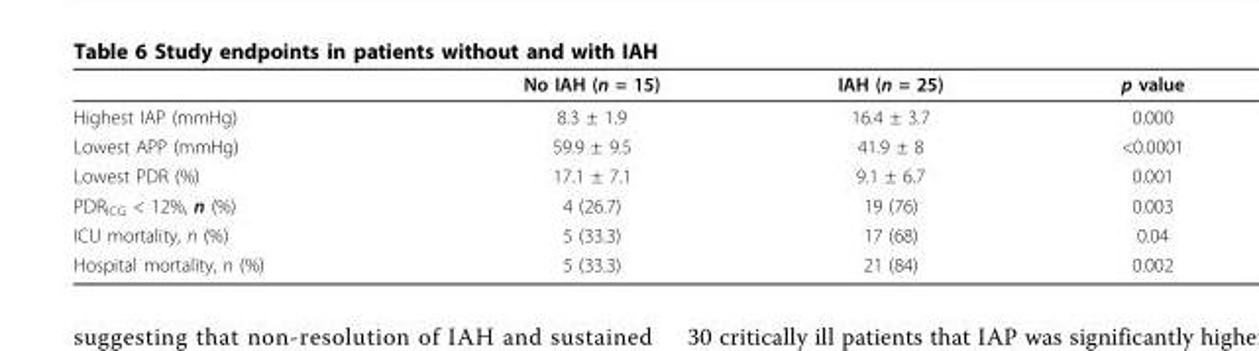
<table><thead><tr><td></td><td>No IAH (n = 15)</td><td>IAH (n = 25)</td><td>p value</td></tr></thead><tbody><tr><td>Highest IAP (mmHg)</td><td>8.3 ± 1.9</td><td>16.4 ± 3.7</td><td>0.000</td></tr><tr><td>Lowest APP (mmHg)</td><td>59.9 ± 9.5</td><td>41.9 ± 8</td><td>&lt;0.0001</td></tr><tr><td>Lowest PDR (%)</td><td>17.1 ± 7.1</td><td>9.1 ± 6.7</td><td>0.001</td></tr><tr><td>PDR<sub>ICG</sub> &lt; 12%, n (%)</td><td>4 (26.7)</td><td>19 (76)</td><td>0.003</td></tr><tr><td>ICU mortality, n (%)</td><td>5 (33.3)</td><td>17 (68)</td><td>0.04</td></tr><tr><td>Hospital mortality, n (%)</td><td>5 (33.3)</td><td>21 (84)</td><td>0.002</td></tr></tbody></table>